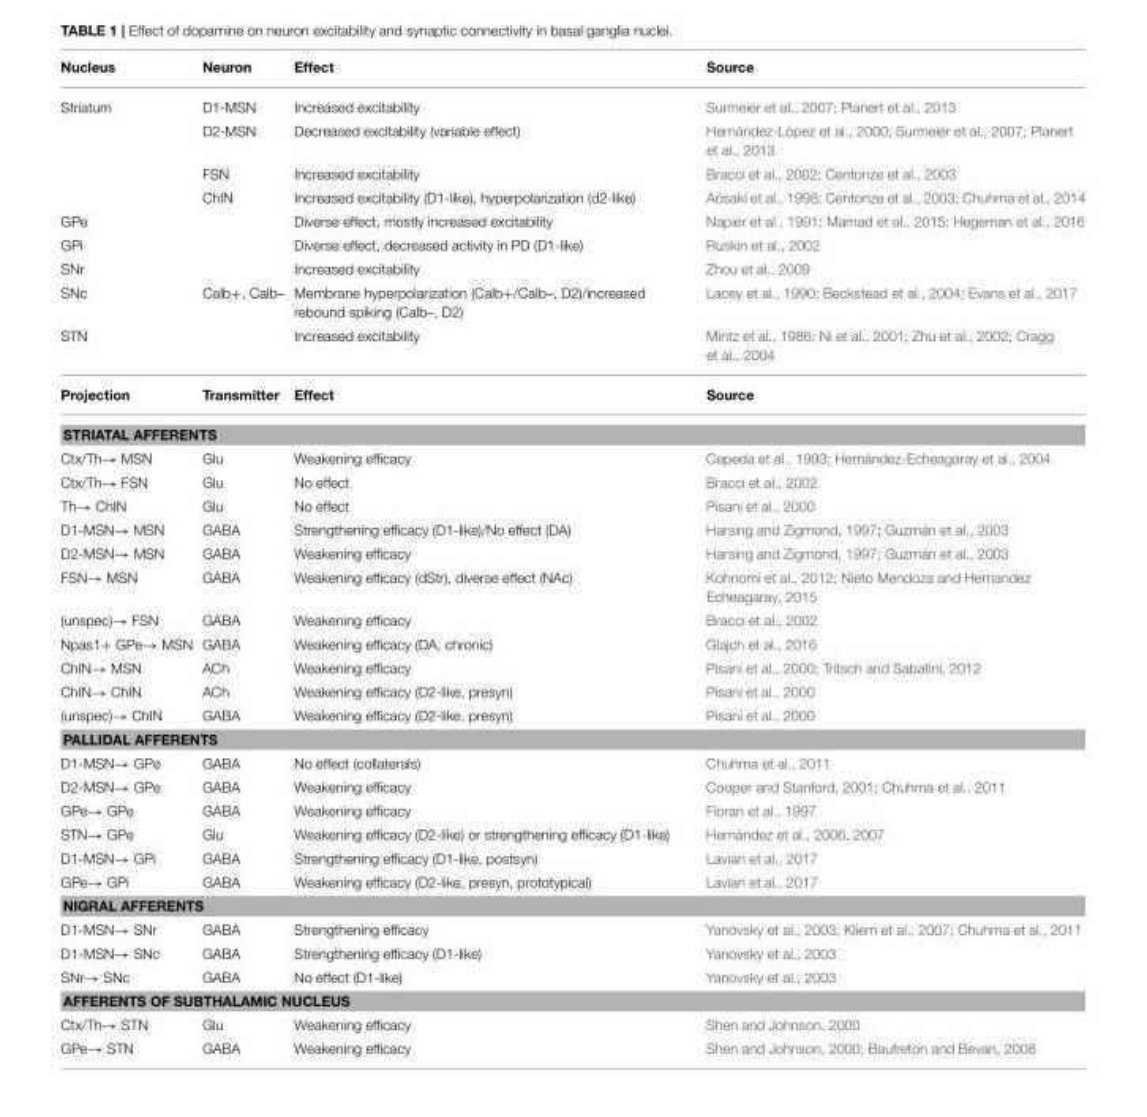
<table><thead><tr><td>Nucleus</td><td>Neuron</td><td>Effect</td><td>Source</td></tr></thead><tbody><tr><td rowspan="4">Striatum</td><td>D1-MSN</td><td>Increased excitability</td><td>Surmeier et al., 2007; Planert et al., 2013</td></tr><tr><td>D2-MSN</td><td>Decreased excitability (variable effect)</td><td>Hernández-López et al., 2000; Surmeier et al., 2007; Planert et al., 2013</td></tr><tr><td>FSN</td><td>Increased excitability</td><td>Bracci et al., 2002; Centonze et al., 2003</td></tr><tr><td>ChIN</td><td>Increased excitability (D1-like), hyperpolarization (d2-like)</td><td>Aosaki et al., 1998; Centonze et al., 2003; Chuhma et al., 2014</td></tr><tr><td>GPe</td><td></td><td>Diverse effect, mostly increased excitability</td><td>Napier et al., 1991; Mamad et al., 2015; Hegeman et al., 2016</td></tr><tr><td>GPi</td><td></td><td>Diverse effect, decreased activity in PD (D1-like)</td><td>Ruskin et al., 2002</td></tr><tr><td>SNr</td><td></td><td>Increased excitability</td><td>Zhou et al., 2009</td></tr><tr><td>SNc</td><td>Calb+, Calb–</td><td>Membrane hyperpolarization (Calb+/Calb–, D2)/increased rebound spiking (Calb–, D2)</td><td>Lacey et al., 1990; Beckstead et al., 2004; Evans et al., 2017</td></tr><tr><td>STN</td><td></td><td>Increased excitability</td><td>Mintz et al., 1986; Ni et al., 2001; Zhu et al., 2002; Cragg et al., 2004</td></tr><tr><td>Projection</td><td>Transmitter</td><td>Effect</td><td>Source</td></tr><tr><td colspan="4">STRIATAL AFFERENTS</td></tr><tr><td>Ctx/Th→ MSN</td><td>Glu</td><td>Weakening efficacy</td><td>Cepeda et al., 1993; Hernández-Echeagaray et al., 2004</td></tr><tr><td>Ctx/Th→ FSN</td><td>Glu</td><td>No effect</td><td>Bracci et al., 2002</td></tr><tr><td>Th→ ChIN</td><td>Glu</td><td>No effect</td><td>Pisani et al., 2000</td></tr><tr><td>D1-MSN→ MSN</td><td>GABA</td><td>Strengthening efficacy (D1-like)/No effect (DA)</td><td>Harsing and Zigmond, 1997; Guzmán et al., 2003</td></tr><tr><td>D2-MSN→ MSN</td><td>GABA</td><td>Weakening efficacy</td><td>Harsing and Zigmond, 1997; Guzmán et al., 2003</td></tr><tr><td>FSN→ MSN</td><td>GABA</td><td>Weakening efficacy (dStr), diverse effect (NAc)</td><td>Kohnomi et al., 2012; Nieto Mendoza and Hernandez Echeagaray, 2015</td></tr><tr><td>(unspec)→ FSN</td><td>GABA</td><td>Weakening efficacy</td><td>Bracci et al., 2002</td></tr><tr><td>Npas1+ GPe→ MSN</td><td>GABA</td><td>Weakening efficacy (DA, chronic)</td><td>Glajch et al., 2016</td></tr><tr><td>ChIN→ MSN</td><td>ACh</td><td>Weakening efficacy</td><td>Pisani et al., 2000; Tritsch and Sabatini, 2012</td></tr><tr><td>ChIN→ ChIN</td><td>ACh</td><td>Weakening efficacy (D2-like, presyn)</td><td>Pisani et al., 2000</td></tr><tr><td>(unspec)→ ChIN</td><td>GABA</td><td>Weakening efficacy (D2-like, presyn)</td><td>Pisani et al., 2000</td></tr><tr><td colspan="4">PALLIDAL AFFERENTS</td></tr><tr><td>D1-MSN→ GPe</td><td>GABA</td><td>No effect (collaterals)</td><td>Chuhma et al., 2011</td></tr><tr><td>D2-MSN→ GPe</td><td>GABA</td><td>Weakening efficacy</td><td>Cooper and Stanford, 2001; Chuhma et al., 2011</td></tr><tr><td>GPe→ GPe</td><td>GABA</td><td>Weakening efficacy</td><td>Floran et al., 1997</td></tr><tr><td>STN→ GPe</td><td>Glu</td><td>Weakening efficacy (D2-like) or strengthening efficacy (D1-like)</td><td>Hernández et al., 2006, 2007</td></tr><tr><td>D1-MSN→ GPi</td><td>GABA</td><td>Strengthening efficacy (D1-like, postsyn)</td><td>Lavian et al., 2017</td></tr><tr><td>GPe→ GPi</td><td>GABA</td><td>Weakening efficacy (D2-like, presyn, prototypical)</td><td>Lavian et al., 2017</td></tr><tr><td colspan="4">NIGRAL AFFERENTS</td></tr><tr><td>D1-MSN→ SNr</td><td>GABA</td><td>Strengthening efficacy</td><td>Yanovsky et al., 2003; Kliem et al., 2007; Chuhma et al., 2011</td></tr><tr><td>D1-MSN→ SNc</td><td>GABA</td><td>Strengthening efficacy (D1-like)</td><td>Yanovsky et al., 2003</td></tr><tr><td>SNr→ SNc</td><td>GABA</td><td>No effect (D1-like)</td><td>Yanovsky et al., 2003</td></tr><tr><td colspan="4">AFFERENTS OF SUBTHALAMIC NUCLEUS</td></tr><tr><td>Ctx/Th→ STN</td><td>Glu</td><td>Weakening efficacy</td><td>Shen and Johnson, 2000</td></tr><tr><td>GPe→ STN</td><td>GABA</td><td>Weakening efficacy</td><td>Shen and Johnson, 2000; Baufreton and Bevan, 2008</td></tr></tbody></table>